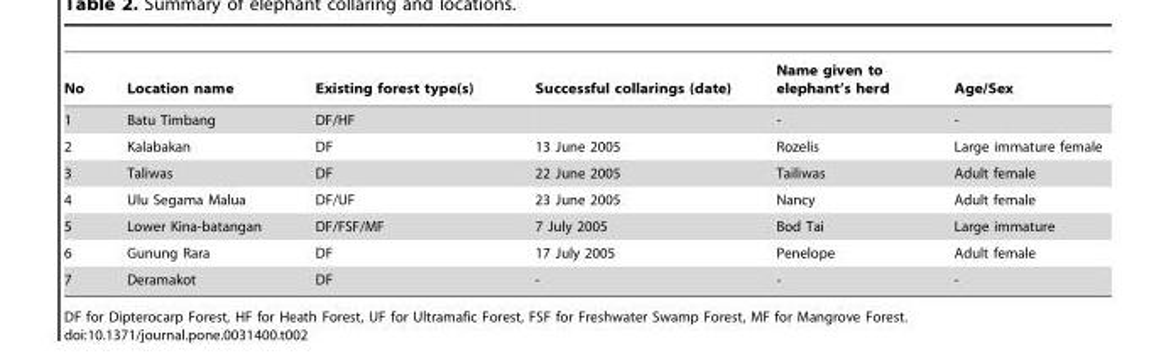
<table><thead><tr><td>No</td><td>Location name</td><td>Existing forest type(s)</td><td>Successful collarings (date)</td><td>Name given to elephant’s herd</td><td>Age/Sex</td></tr></thead><tbody><tr><td>1</td><td>Batu Timbang</td><td>DF/HF</td><td></td><td>-</td><td>-</td></tr><tr><td>2</td><td>Kalabakan</td><td>DF</td><td>13 June 2005</td><td>Rozelis</td><td>Large immature female</td></tr><tr><td>3</td><td>Taliwas</td><td>DF</td><td>22 June 2005</td><td>Tailiwas</td><td>Adult female</td></tr><tr><td>4</td><td>Ulu Segama Malua</td><td>DF/UF</td><td>23 June 2005</td><td>Nancy</td><td>Adult female</td></tr><tr><td>5</td><td>Lower Kina-batangan</td><td>DF/FSF/MF</td><td>7 July 2005</td><td>Bod Tai</td><td>Large immature</td></tr><tr><td>6</td><td>Gunung Rara</td><td>DF</td><td>17 July 2005</td><td>Penelope</td><td>Adult female</td></tr><tr><td>7</td><td>Deramakot</td><td>DF</td><td>-</td><td>-</td><td>-</td></tr></tbody></table>